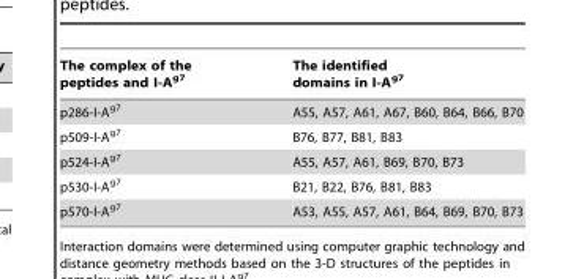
<table><thead><tr><td>The complex of the peptides and I-A<sup>g7</sup></td><td>The identified domains in I-A<sup>g7</sup></td></tr></thead><tbody><tr><td>p286-I-A<sup>g7</sup></td><td>A55, A57, A61, A67, B60, B64, B66, B70</td></tr><tr><td>p509-I-A<sup>g7</sup></td><td>B76, B77, B81, B83</td></tr><tr><td>p524-I-A<sup>g7</sup></td><td>A55, A57, A61, B69, B70, B73</td></tr><tr><td>p530-I-A<sup>g7</sup></td><td>B21, B22, B76, B81, B83</td></tr><tr><td>p570-I-A<sup>g7</sup></td><td>A53, A55, A57, A61, B64, B69, B70, B73</td></tr></tbody></table>